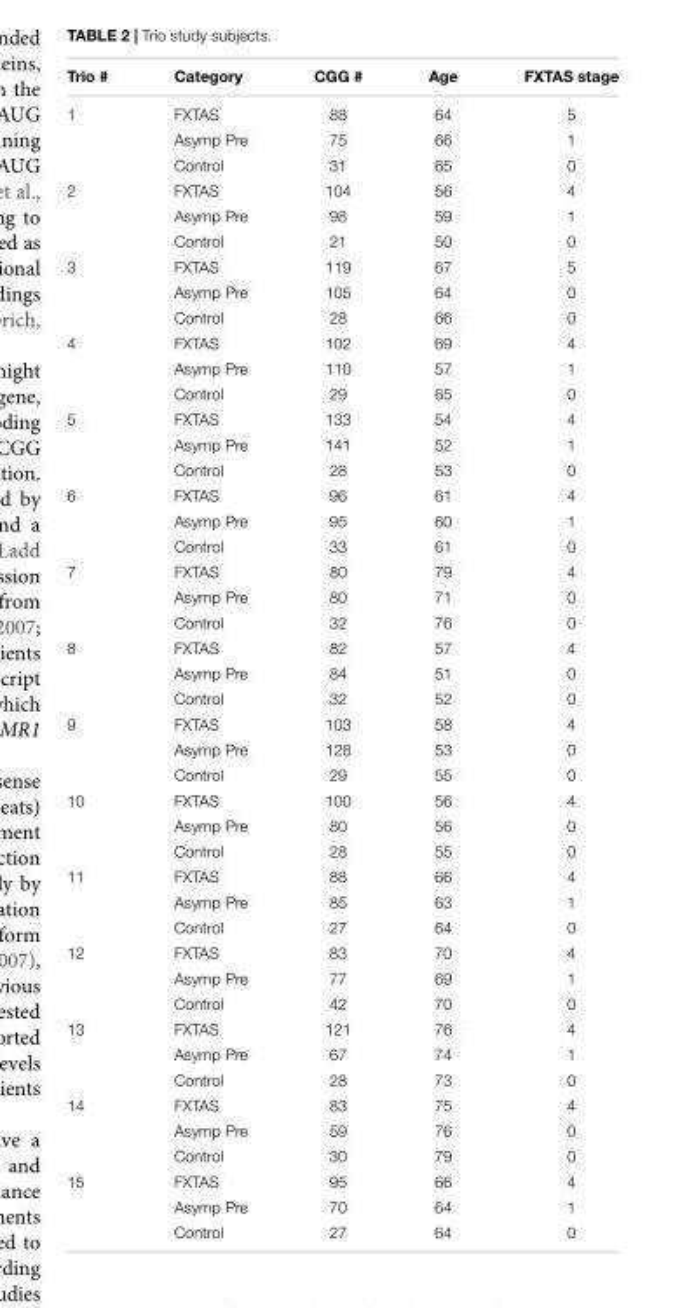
<table><thead><tr><td>Trio #</td><td>Category</td><td>CGG #</td><td>Age</td><td>FXTAS stage</td></tr></thead><tbody><tr><td rowspan="3">1</td><td>FXTAS</td><td>88</td><td>64</td><td>5</td></tr><tr><td>Asymp Pre</td><td>75</td><td>66</td><td>1</td></tr><tr><td>Control</td><td>31</td><td>65</td><td>0</td></tr><tr><td rowspan="3">2</td><td>FXTAS</td><td>104</td><td>56</td><td>4</td></tr><tr><td>Asymp Pre</td><td>98</td><td>59</td><td>1</td></tr><tr><td>Control</td><td>21</td><td>50</td><td>0</td></tr><tr><td rowspan="3">3</td><td>FXTAS</td><td>119</td><td>67</td><td>5</td></tr><tr><td>Asymp Pre</td><td>105</td><td>64</td><td>0</td></tr><tr><td>Control</td><td>28</td><td>66</td><td>0</td></tr><tr><td rowspan="3">4</td><td>FXTAS</td><td>102</td><td>69</td><td>4</td></tr><tr><td>Asymp Pre</td><td>110</td><td>57</td><td>1</td></tr><tr><td>Control</td><td>29</td><td>65</td><td>0</td></tr><tr><td rowspan="3">5</td><td>FXTAS</td><td>133</td><td>54</td><td>4</td></tr><tr><td>Asymp Pre</td><td>141</td><td>52</td><td>1</td></tr><tr><td>Control</td><td>28</td><td>53</td><td>0</td></tr><tr><td rowspan="3">6</td><td>FXTAS</td><td>96</td><td>61</td><td>4</td></tr><tr><td>Asymp Pre</td><td>95</td><td>60</td><td>1</td></tr><tr><td>Control</td><td>33</td><td>61</td><td>0</td></tr><tr><td rowspan="3">7</td><td>FXTAS</td><td>80</td><td>79</td><td>4</td></tr><tr><td>Asymp Pre</td><td>80</td><td>71</td><td>0</td></tr><tr><td>Control</td><td>32</td><td>76</td><td>0</td></tr><tr><td rowspan="3">8</td><td>FXTAS</td><td>82</td><td>57</td><td>4</td></tr><tr><td>Asymp Pre</td><td>84</td><td>51</td><td>0</td></tr><tr><td>Control</td><td>32</td><td>52</td><td>0</td></tr><tr><td rowspan="3">9</td><td>FXTAS</td><td>103</td><td>58</td><td>4</td></tr><tr><td>Asymp Pre</td><td>128</td><td>53</td><td>0</td></tr><tr><td>Control</td><td>29</td><td>55</td><td>0</td></tr><tr><td rowspan="3">10</td><td>FXTAS</td><td>100</td><td>56</td><td>4</td></tr><tr><td>Asymp Pre</td><td>80</td><td>56</td><td>0</td></tr><tr><td>Control</td><td>28</td><td>55</td><td>0</td></tr><tr><td rowspan="3">11</td><td>FXTAS</td><td>88</td><td>66</td><td>4</td></tr><tr><td>Asymp Pre</td><td>85</td><td>63</td><td>1</td></tr><tr><td>Control</td><td>27</td><td>64</td><td>0</td></tr><tr><td rowspan="3">12</td><td>FXTAS</td><td>83</td><td>70</td><td>4</td></tr><tr><td>Asymp Pre</td><td>77</td><td>69</td><td>1</td></tr><tr><td>Control</td><td>42</td><td>70</td><td>0</td></tr><tr><td rowspan="3">13</td><td>FXTAS</td><td>121</td><td>76</td><td>4</td></tr><tr><td>Asymp Pre</td><td>67</td><td>74</td><td>1</td></tr><tr><td>Control</td><td>28</td><td>73</td><td>0</td></tr><tr><td rowspan="3">14</td><td>FXTAS</td><td>83</td><td>75</td><td>4</td></tr><tr><td>Asymp Pre</td><td>59</td><td>76</td><td>0</td></tr><tr><td>Control</td><td>30</td><td>79</td><td>0</td></tr><tr><td rowspan="3">15</td><td>FXTAS</td><td>95</td><td>66</td><td>4</td></tr><tr><td>Asymp Pre</td><td>70</td><td>64</td><td>1</td></tr><tr><td>Control</td><td>27</td><td>64</td><td>0</td></tr></tbody></table>